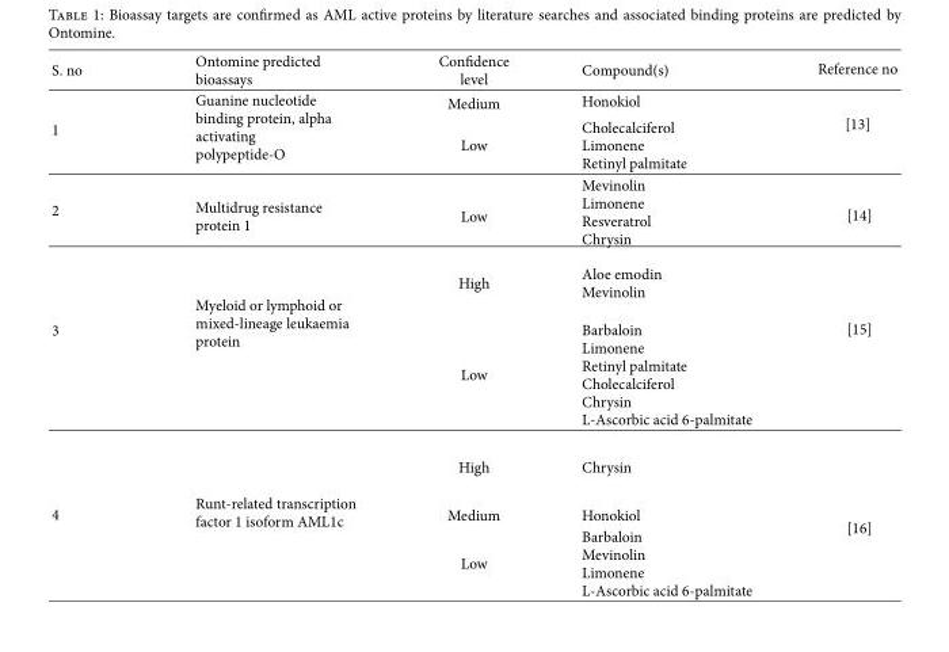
<table><thead><tr><td>S. no</td><td>Ontomine predicted bioassays</td><td>Con�dence level</td><td>Compound(s)</td><td>Reference no</td></tr></thead><tbody><tr><td rowspan="2">1</td><td rowspan="2">Guanine nucleotide binding protein, alpha activating polypeptide-O</td><td>Medium</td><td>Honokiol</td><td rowspan="2">[13]</td></tr><tr><td>Low</td><td>Cholecalciferol Limonene Retinyl palmitate</td></tr><tr><td>2</td><td>Multidrug resistance protein 1</td><td>Low</td><td>Mevinolin Limonene Resveratrol Chrysin</td><td>[14]</td></tr><tr><td rowspan="2">3</td><td rowspan="2">Myeloid or lymphoid or mixed-lineage leukaemia protein</td><td>High</td><td>Aloe emodin Mevinolin</td><td rowspan="2">[15]</td></tr><tr><td>Low</td><td>Barbaloin Limonene Retinyl palmitate Cholecalciferol Chrysin L-Ascorbic acid 6-palmitate</td></tr><tr><td rowspan="3">4</td><td rowspan="3">Runt-related transcription factor 1 isoform AML1c</td><td>High</td><td>Chrysin</td><td rowspan="3">[16]</td></tr><tr><td>Medium</td><td>Honokiol</td></tr><tr><td>Low</td><td>Barbaloin Mevinolin Limonene L-Ascorbic acid 6-palmitate</td></tr></tbody></table>